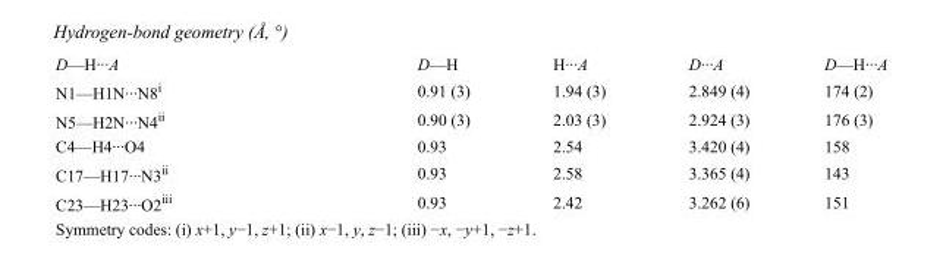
<table><tbody><tr><td>D—H···A</td><td>D—H</td><td>H···A</td><td>D···A</td><td>D—H···A</td></tr><tr><td>N1—H1N···N8<sup>i</sup></td><td>0.91 (3)</td><td>1.94 (3)</td><td>2.849 (4)</td><td>174 (2)</td></tr><tr><td>N5—H2N···N4<sup>ii</sup></td><td>0.90 (3)</td><td>2.03 (3)</td><td>2.924 (3)</td><td>176 (3)</td></tr><tr><td>C4—H4···O4</td><td>0.93</td><td>2.54</td><td>3.420 (4)</td><td>158</td></tr><tr><td>C17—H17···N3<sup>ii</sup></td><td>0.93</td><td>2.58</td><td>3.365 (4)</td><td>143</td></tr><tr><td>C23—H23···O2<sup>iii</sup></td><td>0.93</td><td>2.42</td><td>3.262 (6)</td><td>151</td></tr></tbody></table>